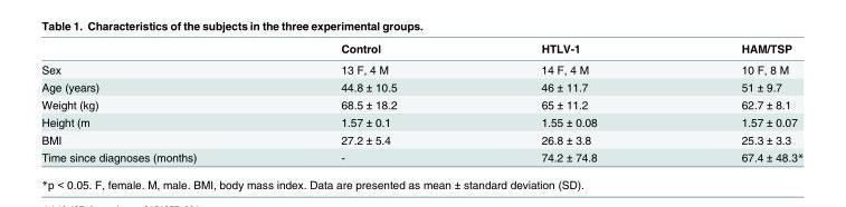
<table><thead><tr><td></td><td>Control</td><td>HTLV-1</td><td>HAM/TSP</td></tr></thead><tbody><tr><td>Sex</td><td>13 F, 4 M</td><td>14 F, 4 M</td><td>10 F, 8 M</td></tr><tr><td>Age (years)</td><td>44.8 ± 10.5</td><td>46 ± 11.7</td><td>51 ± 9.7</td></tr><tr><td>Weight (kg)</td><td>68.5 ± 18.2</td><td>65 ± 11.2</td><td>62.7 ± 8.1</td></tr><tr><td>Height (m</td><td>1.57 ± 0.1</td><td>1.55 ± 0.08</td><td>1.57 ± 0.07</td></tr><tr><td>BMI</td><td>27.2 ± 5.4</td><td>26.8 ± 3.8</td><td>25.3 ± 3.3</td></tr><tr><td>Time since diagnoses (months)</td><td>-</td><td>74.2 ± 74.8</td><td>67.4 ± 48.3*</td></tr></tbody></table>